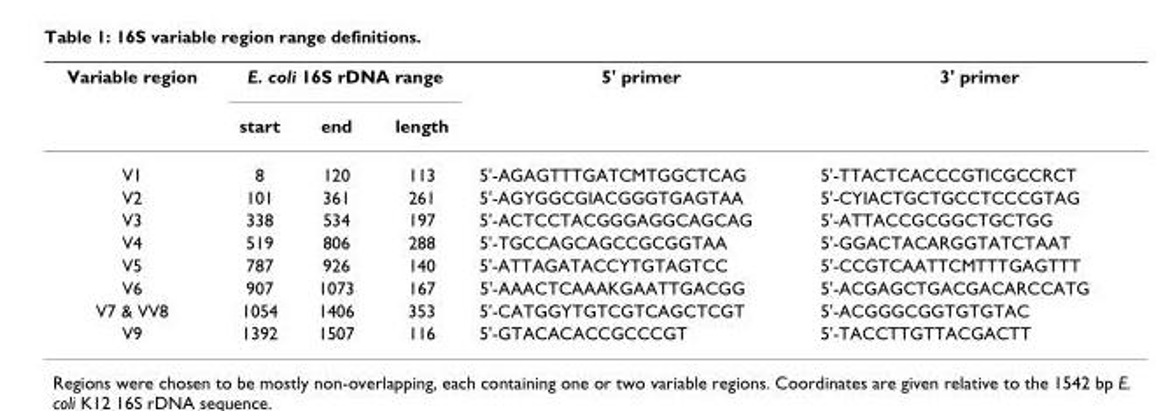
<table><thead><tr><td rowspan="2">Variable region</td><td colspan="3">E. coli 16S rDNA range</td><td rowspan="2">5&#x27; primer</td><td rowspan="2">3&#x27; primer</td></tr><tr><td>start</td><td>end</td><td>length</td></tr></thead><tbody><tr><td>V1</td><td>8</td><td>120</td><td>113</td><td>5&#x27;-AGAGTTTGATCMTGGCTCAG</td><td>5&#x27;-TTACTCACCCGTICGCCRCT</td></tr><tr><td>V2</td><td>101</td><td>361</td><td>261</td><td>5&#x27;-AGYGGCGIACGGGTGAGTAA</td><td>5&#x27;-CYIACTGCTGCCTCCCGTAG</td></tr><tr><td>V3</td><td>338</td><td>534</td><td>197</td><td>5&#x27;-ACTCCTACGGGAGGCAGCAG</td><td>5&#x27;-ATTACCGCGGCTGCTGG</td></tr><tr><td>V4</td><td>519</td><td>806</td><td>288</td><td>5&#x27;-TGCCAGCAGCCGCGGTAA</td><td>5&#x27;-GGACTACARGGTATCTAAT</td></tr><tr><td>V5</td><td>787</td><td>926</td><td>140</td><td>5&#x27;-ATTAGATACCYTGTAGTCC</td><td>5&#x27;-CCGTCAATTCMTTTGAGTTT</td></tr><tr><td>V6</td><td>907</td><td>1073</td><td>167</td><td>5&#x27;-AAACTCAAAKGAATTGACGG</td><td>5&#x27;-ACGAGCTGACGACARCCATG</td></tr><tr><td>V7 &amp; VV8</td><td>1054</td><td>1406</td><td>353</td><td>5&#x27;-CATGGYTGTCGTCAGCTCGT</td><td>5&#x27;-ACGGGCGGTGTGTAC</td></tr><tr><td>V9</td><td>1392</td><td>1507</td><td>116</td><td>5&#x27;-GTACACACCGCCCGT</td><td>5&#x27;-TACCTTGTTACGACTT</td></tr></tbody></table>